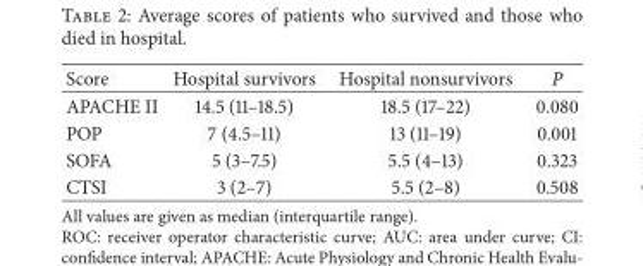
<table><thead><tr><td>Score</td><td>Hospital survivors</td><td>Hospital nonsurvivors</td><td>P</td></tr></thead><tbody><tr><td>APACHE II</td><td>14.5 (11–18.5)</td><td>18.5 (17–22)</td><td>0.080</td></tr><tr><td>POP</td><td>7 (4.5–11)</td><td>13 (11–19)</td><td>0.001</td></tr><tr><td>SOFA</td><td>5 (3–7.5)</td><td>5.5 (4–13)</td><td>0.323</td></tr><tr><td>CTSI</td><td>3 (2–7)</td><td>5.5 (2–8)</td><td>0.508</td></tr></tbody></table>